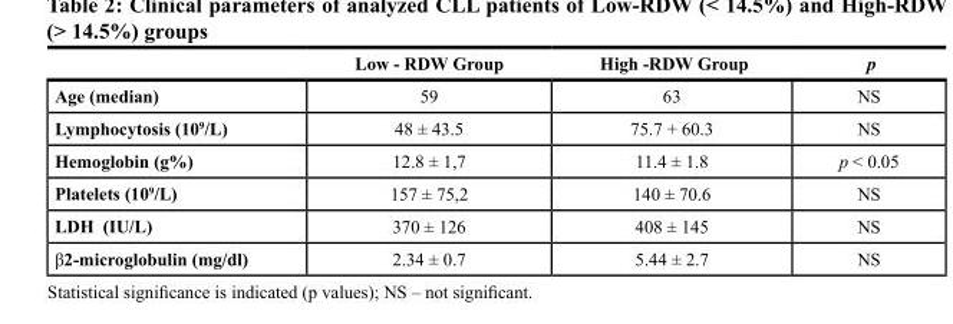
<table><thead><tr><td></td><td>Low - RDW Group</td><td>High -RDW Group</td><td>p</td></tr></thead><tbody><tr><td>Age (median)</td><td>59</td><td>63</td><td>NS</td></tr><tr><td>Lymphocytosis (10<sup>9</sup>/L)</td><td>48 ± 43.5</td><td>75.7 + 60.3</td><td>NS</td></tr><tr><td>Hemoglobin (g%)</td><td>12.8 ± 1,7</td><td>11.4 ± 1.8</td><td>p &lt; 0.05</td></tr><tr><td>Platelets (10<sup>9</sup>/L)</td><td>157 ± 75,2</td><td>140 ± 70.6</td><td>NS</td></tr><tr><td>LDH (IU/L)</td><td>370 ± 126</td><td>408 ± 145</td><td>NS</td></tr><tr><td>β2-microglobulin (mg/dl)</td><td>2.34 ± 0.7</td><td>5.44 ± 2.7</td><td>NS</td></tr></tbody></table>